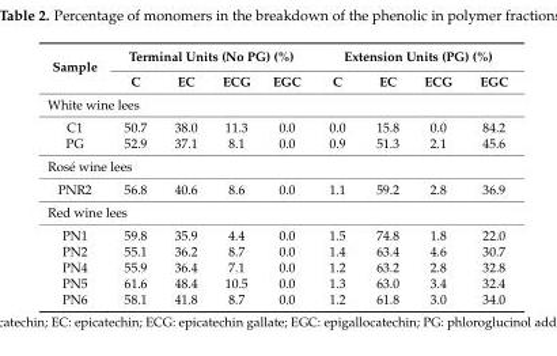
<table><thead><tr><td rowspan="2">Sample</td><td colspan="4">Terminal Units (No PG) (%)</td><td colspan="4">Extension Units (PG) (%)</td></tr><tr><td>C</td><td>EC</td><td>ECG</td><td>EGC</td><td>C</td><td>EC</td><td>ECG</td><td>EGC</td></tr></thead><tbody><tr><td colspan="9">White wine lees</td></tr><tr><td>C1</td><td>50.7</td><td>38.0</td><td>11.3</td><td>0.0</td><td>0.0</td><td>15.8</td><td>0.0</td><td>84.2</td></tr><tr><td>PG</td><td>52.9</td><td>37.1</td><td>8.1</td><td>0.0</td><td>0.9</td><td>51.3</td><td>2.1</td><td>45.6</td></tr><tr><td colspan="9">Rosé wine lees</td></tr><tr><td>PNR2</td><td>56.8</td><td>40.6</td><td>8.6</td><td>0.0</td><td>1.1</td><td>59.2</td><td>2.8</td><td>36.9</td></tr><tr><td colspan="9">Red wine lees</td></tr><tr><td>PN1</td><td>59.8</td><td>35.9</td><td>4.4</td><td>0.0</td><td>1.5</td><td>74.8</td><td>1.8</td><td>22.0</td></tr><tr><td>PN2</td><td>55.1</td><td>36.2</td><td>8.7</td><td>0.0</td><td>1.4</td><td>63.4</td><td>4.6</td><td>30.7</td></tr><tr><td>PN4</td><td>55.9</td><td>36.4</td><td>7.1</td><td>0.0</td><td>1.2</td><td>63.2</td><td>2.8</td><td>32.8</td></tr><tr><td>PN5</td><td>61.6</td><td>48.4</td><td>10.5</td><td>0.0</td><td>1.3</td><td>63.0</td><td>3.4</td><td>32.4</td></tr><tr><td>PN6</td><td>58.1</td><td>41.8</td><td>8.7</td><td>0.0</td><td>1.2</td><td>61.8</td><td>3.0</td><td>34.0</td></tr></tbody></table>